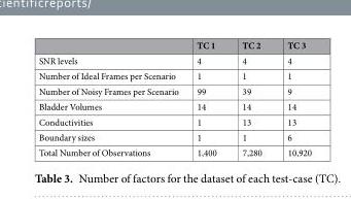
<table><thead><tr><td></td><td>TC 1</td><td>TC 2</td><td>TC 3</td></tr></thead><tbody><tr><td>SNR levels</td><td>4</td><td>4</td><td>4</td></tr><tr><td>Number of Ideal Frames per Scenario</td><td>1</td><td>1</td><td>1</td></tr><tr><td>Number of Noisy Frames per Scenario</td><td>99</td><td>39</td><td>9</td></tr><tr><td>Bladder Volumes</td><td>14</td><td>14</td><td>14</td></tr><tr><td>Conductivities</td><td>1</td><td>13</td><td>13</td></tr><tr><td>Boundary sizes</td><td>1</td><td>1</td><td>6</td></tr><tr><td>Total Number of Observations</td><td>1,400</td><td>7,280</td><td>10,920</td></tr></tbody></table>